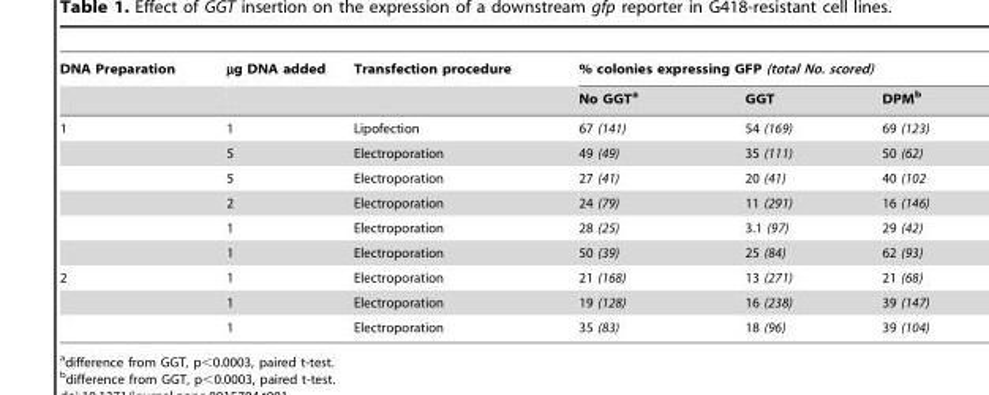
<table><thead><tr><td rowspan="2">DNA Preparation</td><td rowspan="2">µg DNA added</td><td rowspan="2">Transfection procedure</td><td colspan="3">% colonies expressing GFP (total No. scored)</td></tr><tr><td>No GGT<sup>a</sup></td><td>GGT</td><td>DPM<sup>b</sup></td></tr></thead><tbody><tr><td rowspan="6">1</td><td>1</td><td>Lipofection</td><td>67 (141)</td><td>54 (169)</td><td>69 (123)</td></tr><tr><td>5</td><td>Electroporation</td><td>49 (49)</td><td>35 (111)</td><td>50 (62)</td></tr><tr><td>5</td><td>Electroporation</td><td>27 (41)</td><td>20 (41)</td><td>40 (102</td></tr><tr><td>2</td><td>Electroporation</td><td>24 (79)</td><td>11 (291)</td><td>16 (146)</td></tr><tr><td>1</td><td>Electroporation</td><td>28 (25)</td><td>3.1 (97)</td><td>29 (42)</td></tr><tr><td>1</td><td>Electroporation</td><td>50 (39)</td><td>25 (84)</td><td>62 (93)</td></tr><tr><td rowspan="3">2</td><td>1</td><td>Electroporation</td><td>21 (168)</td><td>13 (271)</td><td>21 (68)</td></tr><tr><td>1</td><td>Electroporation</td><td>19 (128)</td><td>16 (238)</td><td>39 (147)</td></tr><tr><td>1</td><td>Electroporation</td><td>35 (83)</td><td>18 (96)</td><td>39 (104)</td></tr></tbody></table>